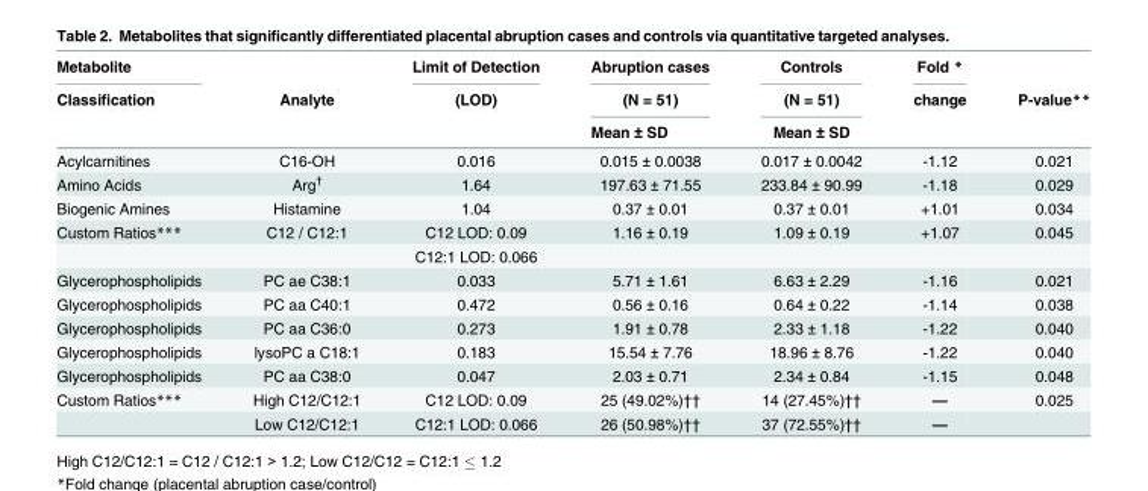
<table><thead><tr><td rowspan="3">Metabolite Classification</td><td rowspan="3">Analyte</td><td rowspan="3">Limit of Detection (LOD)</td><td rowspan="3">Abruption cases (N = 51) Mean ± SD</td><td rowspan="3">Controls (N = 51) Mean ± SD</td><td rowspan="3">Fold * change</td><td rowspan="3">P-value**</td></tr><tr></tr><tr></tr></thead><tbody><tr><td>Acylcarnitines</td><td>C16-OH</td><td>0.016</td><td>0.015 ± 0.0038</td><td>0.017 ± 0.0042</td><td>-1.12</td><td>0.021</td></tr><tr><td>Amino Acids</td><td>Arg<sup>†</sup></td><td>1.64</td><td>197.63 ± 71.55</td><td>233.84 ± 90.99</td><td>-1.18</td><td>0.029</td></tr><tr><td>Biogenic Amines</td><td>Histamine</td><td>1.04</td><td>0.37 ± 0.01</td><td>0.37 ± 0.01</td><td>+1.01</td><td>0.034</td></tr><tr><td rowspan="2">Custom Ratios***</td><td>C12 / C12:1</td><td>C12 LOD: 0.09</td><td>1.16 ± 0.19</td><td>1.09 ± 0.19</td><td>+1.07</td><td>0.045</td></tr><tr><td></td><td>C12:1 LOD: 0.066</td><td></td><td></td><td></td><td></td></tr><tr><td>Glycerophospholipids</td><td>PC ae C38:1</td><td>0.033</td><td>5.71 ± 1.61</td><td>6.63 ± 2.29</td><td>-1.16</td><td>0.021</td></tr><tr><td>Glycerophospholipids</td><td>PC aa C40:1</td><td>0.472</td><td>0.56 ± 0.16</td><td>0.64 ± 0.22</td><td>-1.14</td><td>0.038</td></tr><tr><td>Glycerophospholipids</td><td>PC aa C36:0</td><td>0.273</td><td>1.91 ± 0.78</td><td>2.33 ± 1.18</td><td>-1.22</td><td>0.040</td></tr><tr><td>Glycerophospholipids</td><td>lysoPC a C18:1</td><td>0.183</td><td>15.54 ± 7.76</td><td>18.96 ± 8.76</td><td>-1.22</td><td>0.040</td></tr><tr><td>Glycerophospholipids</td><td>PC aa C38:0</td><td>0.047</td><td>2.03 ± 0.71</td><td>2.34 ± 0.84</td><td>-1.15</td><td>0.048</td></tr><tr><td rowspan="2">Custom Ratios***</td><td>High C12/C12:1</td><td>C12 LOD: 0.09</td><td>25 (49.02%)††</td><td>14 (27.45%)††</td><td>—</td><td>0.025</td></tr><tr><td>Low C12/C12:1</td><td>C12:1 LOD: 0.066</td><td>26 (50.98%)††</td><td>37 (72.55%)††</td><td>—</td><td></td></tr></tbody></table>